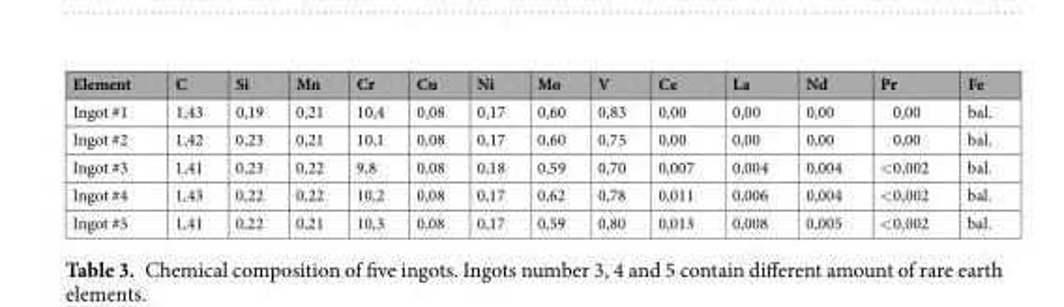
<table><thead><tr><td>Element</td><td>C</td><td>Si</td><td>Mn</td><td>Cr</td><td>Cu</td><td>Ni</td><td>Mo</td><td>V</td><td>Ce</td><td>La</td><td>Nd</td><td>Pr</td><td>Fe</td></tr></thead><tbody><tr><td>Ingot #1</td><td>1,43</td><td>0,19</td><td>0,21</td><td>10,4</td><td>0,08</td><td>0,17</td><td>0,60</td><td>0,83</td><td>0,00</td><td>0,00</td><td>0,00</td><td>0,00</td><td>bal.</td></tr><tr><td>Ingot #2</td><td>1,42</td><td>0,23</td><td>0,21</td><td>10,1</td><td>0,08</td><td>0,17</td><td>0,60</td><td>0,75</td><td>0,00</td><td>0,00</td><td>0,00</td><td>0,00</td><td>bal.</td></tr><tr><td>Ingot #3</td><td>1,41</td><td>0,23</td><td>0,22</td><td>9,8</td><td>0,08</td><td>0,18</td><td>0,59</td><td>0,70</td><td>0,007</td><td>0,004</td><td>0,004</td><td>&lt;0,002</td><td>bal.</td></tr><tr><td>Ingot #4</td><td>1,43</td><td>0,22</td><td>0,22</td><td>10,2</td><td>0,08</td><td>0,17</td><td>0,62</td><td>0,78</td><td>0,011</td><td>0,006</td><td>0,004</td><td>&lt;0,002</td><td>bal.</td></tr><tr><td>Ingot #5</td><td>1,41</td><td>0,22</td><td>0,21</td><td>10,3</td><td>0,08</td><td>0,17</td><td>0,59</td><td>0,80</td><td>0,013</td><td>0,008</td><td>0,005</td><td>&lt;0,002</td><td>bal.</td></tr></tbody></table>